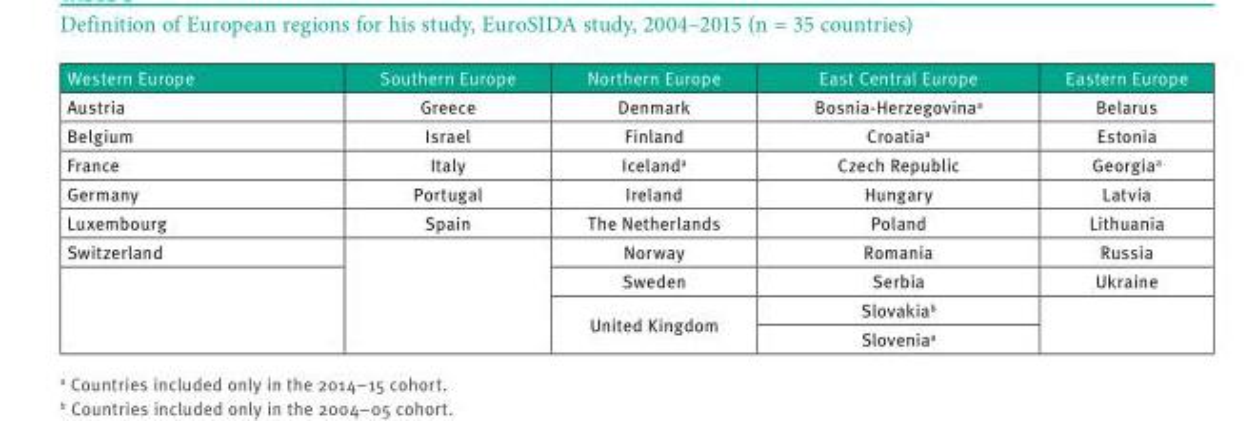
<table><thead><tr><td>Western Europe</td><td>Southern Europe</td><td>Northern Europe</td><td>East Central Europe</td><td>Eastern Europe</td></tr></thead><tbody><tr><td>Austria</td><td>Greece</td><td>Denmark</td><td>Bosnia-Herzegovina<sup>a</sup></td><td>Belarus</td></tr><tr><td>Belgium</td><td>Israel</td><td>Finland</td><td>Croatia<sup>a</sup></td><td>Estonia</td></tr><tr><td>France</td><td>Italy</td><td>Iceland<sup>a</sup></td><td>Czech Republic</td><td>Georgia<sup>a</sup></td></tr><tr><td>Germany</td><td>Portugal</td><td>Ireland</td><td>Hungary</td><td>Latvia</td></tr><tr><td>Luxembourg</td><td>Spain</td><td>The Netherlands</td><td>Poland</td><td>Lithuania</td></tr><tr><td rowspan="4">Switzerland</td><td rowspan="4"></td><td>Norway</td><td>Romania</td><td>Russia</td></tr><tr><td>Sweden</td><td>Serbia</td><td>Ukraine</td></tr><tr><td rowspan="2">United Kingdom</td><td>Slovakia<sup>b</sup></td><td rowspan="2"></td></tr><tr><td>Slovenia<sup>a</sup></td></tr></tbody></table>